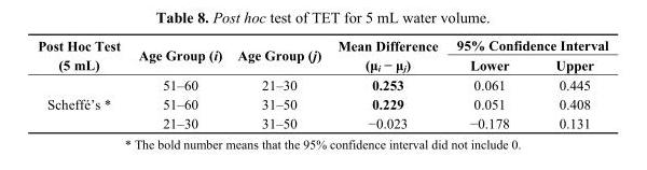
<table><thead><tr><td rowspan="2">Post Hoc Test (5 mL)</td><td rowspan="2">Age Group (i)</td><td rowspan="2">Age Group (j)</td><td rowspan="2">Mean Difference (μ<sub>i</sub> − μ<sub>j</sub>)</td><td colspan="2">95% Confidence Interval</td></tr><tr><td>Lower</td><td>Upper</td></tr></thead><tbody><tr><td rowspan="3">Scheffé’s *</td><td>51–60</td><td>21–30</td><td>0.253</td><td>0.061</td><td>0.445</td></tr><tr><td>51–60</td><td>31–50</td><td>0.229</td><td>0.051</td><td>0.408</td></tr><tr><td>21–30</td><td>31–50</td><td>−0.023</td><td>−0.178</td><td>0.131</td></tr></tbody></table>